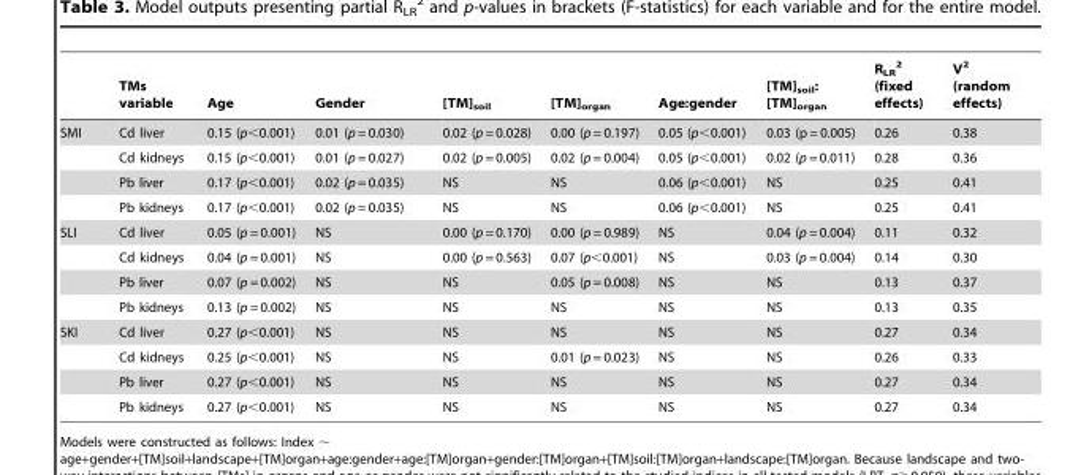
<table><thead><tr><td></td><td>TMs variable</td><td>Age</td><td>Gender</td><td>[TM]<sub>soil</sub></td><td>[TM]<sub>organ</sub></td><td>Age:gender</td><td>[TM]<sub>soil</sub>: [TM]<sub>organ</sub></td><td>R<sub>LR</sub> <sup>2</sup> (fixed effects)</td><td>V<sup>2</sup> (random effects)</td></tr></thead><tbody><tr><td rowspan="4">SMI</td><td>Cd liver</td><td>0.15 (p&lt;0.001)</td><td>0.01 (p = 0.030)</td><td>0.02 (p = 0.028)</td><td>0.00 (p = 0.197)</td><td>0.05 (p&lt;0.001)</td><td>0.03 (p = 0.005)</td><td>0.26</td><td>0.38</td></tr><tr><td>Cd kidneys</td><td>0.15 (p&lt;0.001)</td><td>0.01 (p = 0.027)</td><td>0.02 (p = 0.005)</td><td>0.02 (p = 0.004)</td><td>0.05 (p&lt;0.001)</td><td>0.02 (p = 0.011)</td><td>0.28</td><td>0.36</td></tr><tr><td>Pb liver</td><td>0.17 (p&lt;0.001)</td><td>0.02 (p = 0.035)</td><td>NS</td><td>NS</td><td>0.06 (p&lt;0.001)</td><td>NS</td><td>0.25</td><td>0.41</td></tr><tr><td>Pb kidneys</td><td>0.17 (p&lt;0.001)</td><td>0.02 (p = 0.035)</td><td>NS</td><td>NS</td><td>0.06 (p&lt;0.001)</td><td>NS</td><td>0.25</td><td>0.41</td></tr><tr><td rowspan="4">SLI</td><td>Cd liver</td><td>0.05 (p = 0.001)</td><td>NS</td><td>0.00 (p = 0.170)</td><td>0.00 (p = 0.989)</td><td>NS</td><td>0.04 (p = 0.004)</td><td>0.11</td><td>0.32</td></tr><tr><td>Cd kidneys</td><td>0.04 (p = 0.001)</td><td>NS</td><td>0.00 (p = 0.563)</td><td>0.07 (p&lt;0.001)</td><td>NS</td><td>0.03 (p = 0.004)</td><td>0.14</td><td>0.30</td></tr><tr><td>Pb liver</td><td>0.07 (p = 0.002)</td><td>NS</td><td>NS</td><td>0.05 (p = 0.008)</td><td>NS</td><td>NS</td><td>0.13</td><td>0.37</td></tr><tr><td>Pb kidneys</td><td>0.13 (p = 0.002)</td><td>NS</td><td>NS</td><td>NS</td><td>NS</td><td>NS</td><td>0.13</td><td>0.35</td></tr><tr><td rowspan="4">SKI</td><td>Cd liver</td><td>0.27 (p&lt;0.001)</td><td>NS</td><td>NS</td><td>NS</td><td>NS</td><td>NS</td><td>0.27</td><td>0.34</td></tr><tr><td>Cd kidneys</td><td>0.25 (p&lt;0.001)</td><td>NS</td><td>NS</td><td>0.01 (p = 0.023)</td><td>NS</td><td>NS</td><td>0.26</td><td>0.33</td></tr><tr><td>Pb liver</td><td>0.27 (p&lt;0.001)</td><td>NS</td><td>NS</td><td>NS</td><td>NS</td><td>NS</td><td>0.27</td><td>0.34</td></tr><tr><td>Pb kidneys</td><td>0.27 (p&lt;0.001)</td><td>NS</td><td>NS</td><td>NS</td><td>NS</td><td>NS</td><td>0.27</td><td>0.34</td></tr></tbody></table>